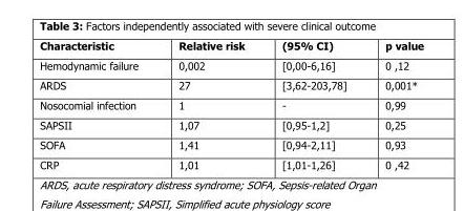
<table><thead><tr><td>Characteristic</td><td>Relative risk</td><td>(95% CI)</td><td>p value</td></tr></thead><tbody><tr><td>Hemodynamic failure</td><td>0,002</td><td>[0,00-6,16]</td><td>0 ,12</td></tr><tr><td>ARDS</td><td>27</td><td>[3,62-203,78]</td><td>0,001*</td></tr><tr><td>Nosocomial infection</td><td>1</td><td>-</td><td>0,99</td></tr><tr><td>SAPSII</td><td>1,07</td><td>[0,95-1,2]</td><td>0,25</td></tr><tr><td>SOFA</td><td>1,41</td><td>[0,94-2,11]</td><td>0,93</td></tr><tr><td>CRP</td><td>1,01</td><td>[1,01-1,26]</td><td>0 ,42</td></tr></tbody></table>